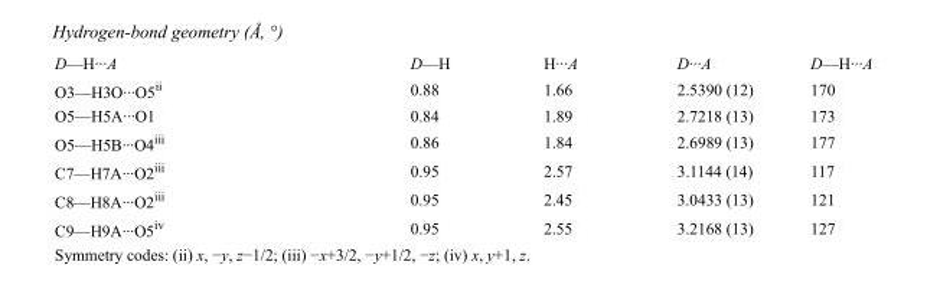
<table><tbody><tr><td>D—H···A</td><td>D—H</td><td>H···A</td><td>D···A</td><td>D—H···A</td></tr><tr><td>O3—H3O···O5<sup>ii</sup></td><td>0.88</td><td>1.66</td><td>2.5390 (12)</td><td>170</td></tr><tr><td>O5—H5A···O1</td><td>0.84</td><td>1.89</td><td>2.7218 (13)</td><td>173</td></tr><tr><td>O5—H5B···O4<sup>iii</sup></td><td>0.86</td><td>1.84</td><td>2.6989 (13)</td><td>177</td></tr><tr><td>C7—H7A···O2<sup>iii</sup></td><td>0.95</td><td>2.57</td><td>3.1144 (14)</td><td>117</td></tr><tr><td>C8—H8A···O2<sup>iii</sup></td><td>0.95</td><td>2.45</td><td>3.0433 (13)</td><td>121</td></tr><tr><td>C9—H9A···O5<sup>iv</sup></td><td>0.95</td><td>2.55</td><td>3.2168 (13)</td><td>127</td></tr></tbody></table>